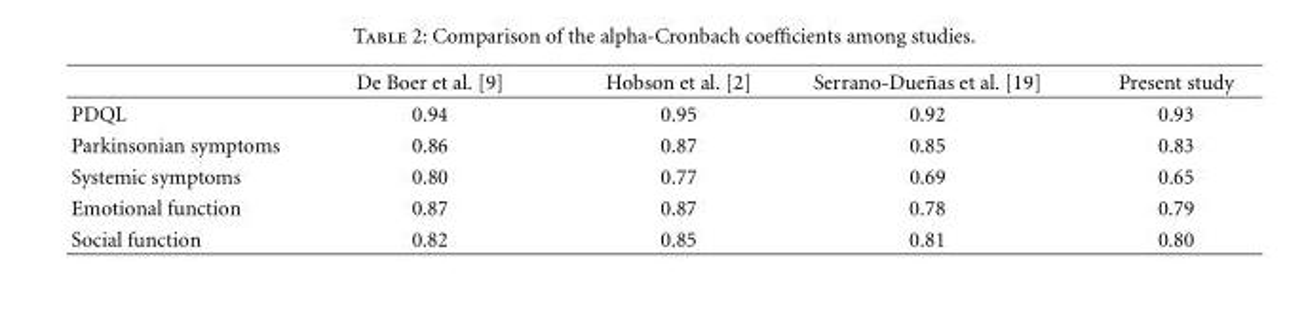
<table><thead><tr><td></td><td>De Boer et al. [9]</td><td>Hobson et al. [2]</td><td>Serrano-Due˜nas et al. [19]</td><td>Present study</td></tr></thead><tbody><tr><td>PDQL</td><td>0.94</td><td>0.95</td><td>0.92</td><td>0.93</td></tr><tr><td>Parkinsonian symptoms</td><td>0.86</td><td>0.87</td><td>0.85</td><td>0.83</td></tr><tr><td>Systemic symptoms</td><td>0.80</td><td>0.77</td><td>0.69</td><td>0.65</td></tr><tr><td>Emotional function</td><td>0.87</td><td>0.87</td><td>0.78</td><td>0.79</td></tr><tr><td>Social function</td><td>0.82</td><td>0.85</td><td>0.81</td><td>0.80</td></tr></tbody></table>